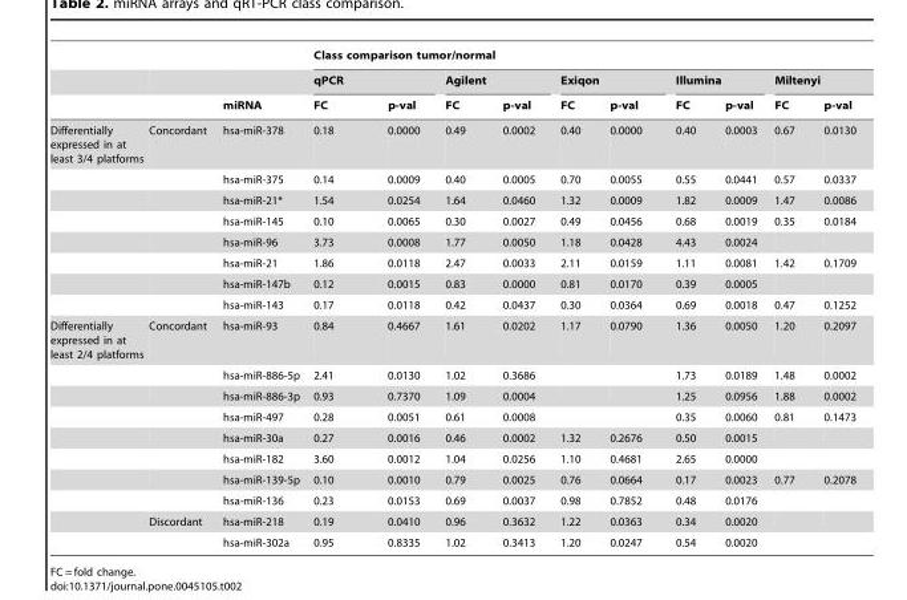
<table><thead><tr><td rowspan="3"></td><td rowspan="3"></td><td rowspan="3">miRNA</td><td colspan="10">Class comparison tumor/normal</td></tr><tr><td colspan="2">qPCR</td><td colspan="2">Agilent</td><td colspan="2">Exiqon</td><td colspan="2">Illumina</td><td colspan="2">Miltenyi</td></tr><tr><td>FC</td><td>p-val</td><td>FC</td><td>p-val</td><td>FC</td><td>p-val</td><td>FC</td><td>p-val</td><td>FC</td><td>p-val</td></tr></thead><tbody><tr><td rowspan="8">Differentially expressed in at least 3/4 platforms</td><td>Concordant</td><td>hsa-miR-378</td><td>0.18</td><td>0.0000</td><td>0.49</td><td>0.0002</td><td>0.40</td><td>0.0000</td><td>0.40</td><td>0.0003</td><td>0.67</td><td>0.0130</td></tr><tr><td></td><td>hsa-miR-375</td><td>0.14</td><td>0.0009</td><td>0.40</td><td>0.0005</td><td>0.70</td><td>0.0055</td><td>0.55</td><td>0.0441</td><td>0.57</td><td>0.0337</td></tr><tr><td></td><td>hsa-miR-21*</td><td>1.54</td><td>0.0254</td><td>1.64</td><td>0.0460</td><td>1.32</td><td>0.0009</td><td>1.82</td><td>0.0009</td><td>1.47</td><td>0.0086</td></tr><tr><td></td><td>hsa-miR-145</td><td>0.10</td><td>0.0065</td><td>0.30</td><td>0.0027</td><td>0.49</td><td>0.0456</td><td>0.68</td><td>0.0019</td><td>0.35</td><td>0.0184</td></tr><tr><td></td><td>hsa-miR-96</td><td>3.73</td><td>0.0008</td><td>1.77</td><td>0.0050</td><td>1.18</td><td>0.0428</td><td>4.43</td><td>0.0024</td><td></td><td></td></tr><tr><td></td><td>hsa-miR-21</td><td>1.86</td><td>0.0118</td><td>2.47</td><td>0.0033</td><td>2.11</td><td>0.0159</td><td>1.11</td><td>0.0081</td><td>1.42</td><td>0.1709</td></tr><tr><td></td><td>hsa-miR-147b</td><td>0.12</td><td>0.0015</td><td>0.83</td><td>0.0000</td><td>0.81</td><td>0.0170</td><td>0.39</td><td>0.0005</td><td></td><td></td></tr><tr><td></td><td>hsa-miR-143</td><td>0.17</td><td>0.0118</td><td>0.42</td><td>0.0437</td><td>0.30</td><td>0.0364</td><td>0.69</td><td>0.0018</td><td>0.47</td><td>0.1252</td></tr><tr><td rowspan="10">Differentially expressed in at least 2/4 platforms</td><td>Concordant</td><td>hsa-miR-93</td><td>0.84</td><td>0.4667</td><td>1.61</td><td>0.0202</td><td>1.17</td><td>0.0790</td><td>1.36</td><td>0.0050</td><td>1.20</td><td>0.2097</td></tr><tr><td></td><td>hsa-miR-886-5p</td><td>2.41</td><td>0.0130</td><td>1.02</td><td>0.3686</td><td></td><td></td><td>1.73</td><td>0.0189</td><td>1.48</td><td>0.0002</td></tr><tr><td></td><td>hsa-miR-886-3p</td><td>0.93</td><td>0.7370</td><td>1.09</td><td>0.0004</td><td></td><td></td><td>1.25</td><td>0.0956</td><td>1.88</td><td>0.0002</td></tr><tr><td></td><td>hsa-miR-497</td><td>0.28</td><td>0.0051</td><td>0.61</td><td>0.0008</td><td></td><td></td><td>0.35</td><td>0.0060</td><td>0.81</td><td>0.1473</td></tr><tr><td></td><td>hsa-miR-30a</td><td>0.27</td><td>0.0016</td><td>0.46</td><td>0.0002</td><td>1.32</td><td>0.2676</td><td>0.50</td><td>0.0015</td><td></td><td></td></tr><tr><td></td><td>hsa-miR-182</td><td>3.60</td><td>0.0012</td><td>1.04</td><td>0.0256</td><td>1.10</td><td>0.4681</td><td>2.65</td><td>0.0000</td><td></td><td></td></tr><tr><td></td><td>hsa-miR-139-5p</td><td>0.10</td><td>0.0010</td><td>0.79</td><td>0.0025</td><td>0.76</td><td>0.0664</td><td>0.17</td><td>0.0023</td><td>0.77</td><td>0.2078</td></tr><tr><td></td><td>hsa-miR-136</td><td>0.23</td><td>0.0153</td><td>0.69</td><td>0.0037</td><td>0.98</td><td>0.7852</td><td>0.48</td><td>0.0176</td><td></td><td></td></tr><tr><td>Discordant</td><td>hsa-miR-218</td><td>0.19</td><td>0.0410</td><td>0.96</td><td>0.3632</td><td>1.22</td><td>0.0363</td><td>0.34</td><td>0.0020</td><td></td><td></td></tr><tr><td></td><td>hsa-miR-302a</td><td>0.95</td><td>0.8335</td><td>1.02</td><td>0.3413</td><td>1.20</td><td>0.0247</td><td>0.54</td><td>0.0020</td><td></td><td></td></tr></tbody></table>